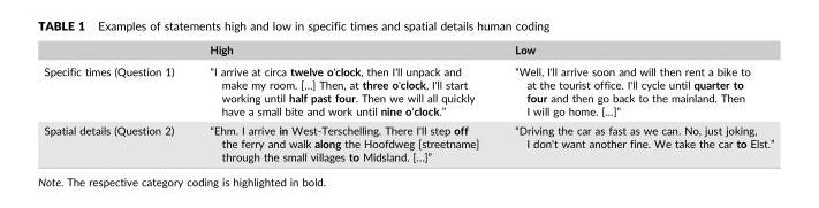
<table><thead><tr><td></td><td>High</td><td>Low</td></tr></thead><tbody><tr><td>Specific times (Question 1)</td><td>“I arrive at circa twelve o&#x27;clock, then I&#x27;ll unpack and make my room. […] Then, at three o&#x27;clock, I&#x27;ll start working until half past four. Then we will all quickly have a small bite and work until nine o&#x27;clock.”</td><td>“Well, I&#x27;ll arrive soon and will then rent a bike to at the tourist office. I&#x27;ll cycle until quarter to four and then go back to the mainland. Then I will go home. […]”</td></tr><tr><td>Spatial details (Question 2)</td><td>“Ehm. I arrive in West‐Terschelling. There I&#x27;ll step off the ferry and walk along the Hoofdweg [streetname] through the small villages to Midsland. […]”</td><td>“Driving the car as fast as we can. No, just joking, I don&#x27;t want another fine. We take the car to Elst.”</td></tr></tbody></table>